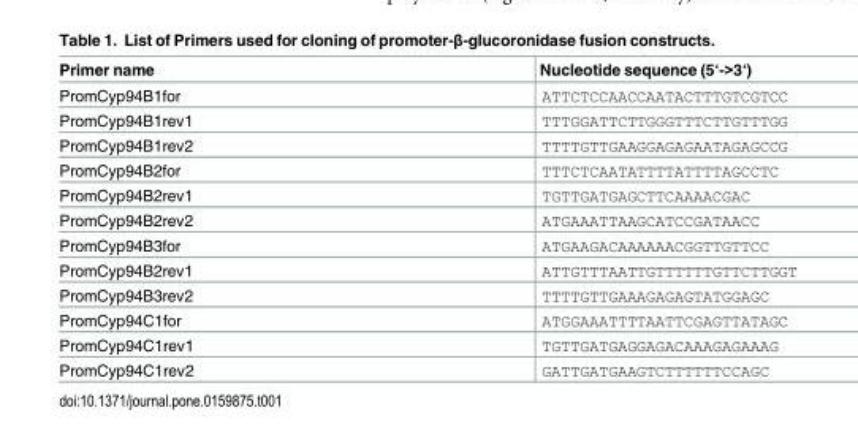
<table><thead><tr><td>Primer name</td><td>Nucleotide sequence (5‘-&gt;3‘)</td></tr></thead><tbody><tr><td>PromCyp94B1for</td><td>ATTCTCCAACCAATACTTTGTCGTCC</td></tr><tr><td>PromCyp94B1rev1</td><td>TTTGGATTCTTGGGTTTCTTGTTTGG</td></tr><tr><td>PromCyp94B1rev2</td><td>TTTTGTTGAAGGAGAGAATAGAGCCG</td></tr><tr><td>PromCyp94B2for</td><td>TTTCTCAATATTTTATTTTAGCCTC</td></tr><tr><td>PromCyp94B2rev1</td><td>TGTTGATGAGCTTCAAAACGAC</td></tr><tr><td>PromCyp94B2rev2</td><td>ATGAAATTAAGCATCCGATAACC</td></tr><tr><td>PromCyp94B3for</td><td>ATGAAGACAAAAAACGGTTGTTCC</td></tr><tr><td>PromCyp94B2rev1</td><td>ATTGTTTAATTGTTTTTTGTTCTTGGT</td></tr><tr><td>PromCyp94B3rev2</td><td>TTTTGTTGAAAGAGAGTATGGAGC</td></tr><tr><td>PromCyp94C1for</td><td>ATGGAAATTTTAATTCGAGTTATAGC</td></tr><tr><td>PromCyp94C1rev1</td><td>TGTTGATGAGGAGACAAAGAGAAAG</td></tr><tr><td>PromCyp94C1rev2</td><td>GATTGATGAAGTCTTTTTTCCAGC</td></tr></tbody></table>